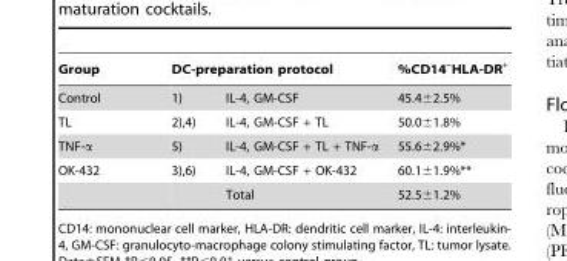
<table><thead><tr><td rowspan="2">Group Control</td><td colspan="2">DC-preparation protocol</td><td rowspan="2">%CD14<sup>–</sup>HLA-DR<sup>+</sup> 45.4±2.5%</td></tr><tr><td>1)</td><td>IL-4, GM-CSF</td></tr></thead><tbody><tr><td>TL</td><td>2),4)</td><td>IL-4, GM-CSF + TL</td><td>50.0±1.8%</td></tr><tr><td>TNF-α</td><td>5)</td><td>IL-4, GM-CSF + TL + TNF-α</td><td>55.6±2.9%*</td></tr><tr><td rowspan="2">OK-432</td><td>3),6)</td><td>IL-4, GM-CSF + OK-432</td><td>60.1±1.9%**</td></tr><tr><td></td><td>Total</td><td>52.5±1.2%</td></tr></tbody></table>